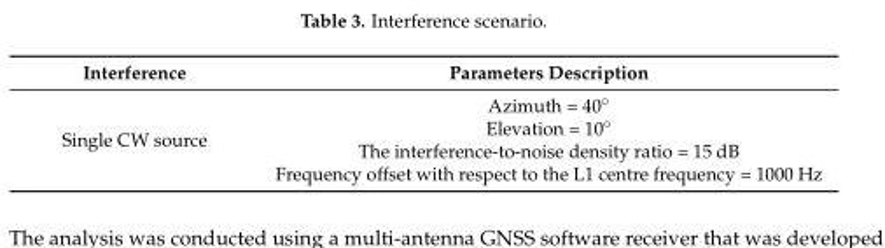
<table><thead><tr><td>Interference</td><td>Parameters Description</td></tr></thead><tbody><tr><td>Single CW source</td><td>Azimuth = 40◦ Elevation = 10◦ The interference-to-noise density ratio = 15 dB Frequency offset with respect to the L1 centre frequency = 1000 Hz</td></tr></tbody></table>